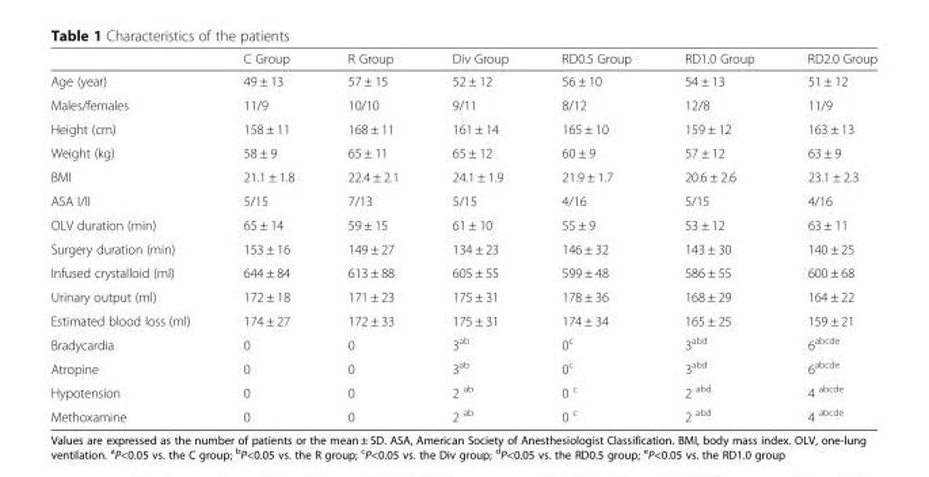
<table><thead><tr><td></td><td>C Group</td><td>R Group</td><td>Div Group</td><td>RD0.5 Group</td><td>RD1.0 Group</td><td>RD2.0 Group</td></tr></thead><tbody><tr><td>Age (year)</td><td>49 ± 13</td><td>57 ± 15</td><td>52 ± 12</td><td>56 ± 10</td><td>54 ± 13</td><td>51 ± 12</td></tr><tr><td>Males/females</td><td>11/9</td><td>10/10</td><td>9/11</td><td>8/12</td><td>12/8</td><td>11/9</td></tr><tr><td>Height (cm)</td><td>158 ± 11</td><td>168 ± 11</td><td>161 ± 14</td><td>165 ± 10</td><td>159 ± 12</td><td>163 ± 13</td></tr><tr><td>Weight (kg)</td><td>58 ± 9</td><td>65 ± 11</td><td>65 ± 12</td><td>60 ± 9</td><td>57 ± 12</td><td>63 ± 9</td></tr><tr><td>BMI</td><td>21.1 ± 1.8</td><td>22.4 ± 2.1</td><td>24.1 ± 1.9</td><td>21.9 ± 1.7</td><td>20.6 ± 2.6</td><td>23.1 ± 2.3</td></tr><tr><td>ASA I/II</td><td>5/15</td><td>7/13</td><td>5/15</td><td>4/16</td><td>5/15</td><td>4/16</td></tr><tr><td>OLV duration (min)</td><td>65 ± 14</td><td>59 ± 15</td><td>61 ± 10</td><td>55 ± 9</td><td>53 ± 12</td><td>63 ± 11</td></tr><tr><td>Surgery duration (min)</td><td>153 ± 16</td><td>149 ± 27</td><td>134 ± 23</td><td>146 ± 32</td><td>143 ± 30</td><td>140 ± 25</td></tr><tr><td>Infused crystalloid (ml)</td><td>644 ± 84</td><td>613 ± 88</td><td>605 ± 55</td><td>599 ± 48</td><td>586 ± 55</td><td>600 ± 68</td></tr><tr><td>Urinary output (ml)</td><td>172 ± 18</td><td>171 ± 23</td><td>175 ± 31</td><td>178 ± 36</td><td>168 ± 29</td><td>164 ± 22</td></tr><tr><td>Estimated blood loss (ml)</td><td>174 ± 27</td><td>172 ± 33</td><td>175 ± 31</td><td>174 ± 34</td><td>165 ± 25</td><td>159 ± 21</td></tr><tr><td>Bradycardia</td><td>0</td><td>0</td><td>3<sup>ab</sup></td><td>0<sup>c</sup></td><td>3<sup>abd</sup></td><td>6<sup>abcde</sup></td></tr><tr><td>Atropine</td><td>0</td><td>0</td><td>3<sup>ab</sup></td><td>0<sup>c</sup></td><td>3<sup>abd</sup></td><td>6<sup>abcde</sup></td></tr><tr><td>Hypotension</td><td>0</td><td>0</td><td>2 <sup>ab</sup></td><td>0 <sup>c</sup></td><td>2 <sup>abd</sup></td><td>4 <sup>abcde</sup></td></tr><tr><td>Methoxamine</td><td>0</td><td>0</td><td>2 <sup>ab</sup></td><td>0 <sup>c</sup></td><td>2 <sup>abd</sup></td><td>4 <sup>abcde</sup></td></tr></tbody></table>